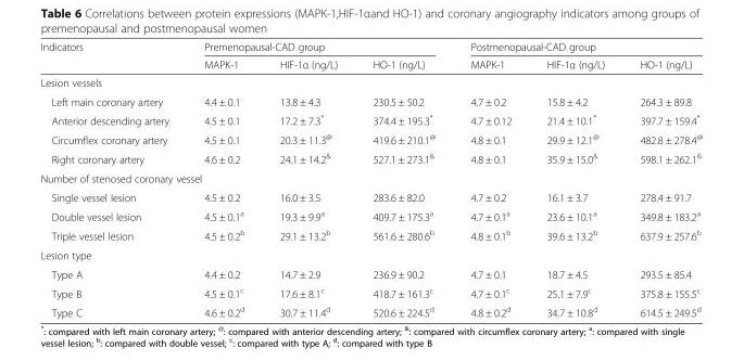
<table><thead><tr><td rowspan="2">Indicators</td><td colspan="3">Premenopausal-CAD group</td><td colspan="3">Postmenopausal-CAD group</td></tr><tr><td>MAPK-1</td><td>HIF-1α (ng/L)</td><td>HO-1 (ng/L)</td><td>MAPK-1</td><td>HIF-1α (ng/L)</td><td>HO-1 (ng/L)</td></tr></thead><tbody><tr><td colspan="7">Lesion vessels</td></tr><tr><td>Left main coronary artery</td><td>4.4 ± 0.1</td><td>13.8 ± 4.3</td><td>230.5 ± 50.2</td><td>4.7 ± 0.2</td><td>15.8 ± 4.2</td><td>264.3 ± 89.8</td></tr><tr><td>Anterior descending artery</td><td>4.5 ± 0.1</td><td>17.2 ± 7.3*</td><td>374.4 ± 195.3*</td><td>4.7 ± 0.12</td><td>21.4 ± 10.1*</td><td>397.7 ± 159.4*</td></tr><tr><td>Circumflex coronary artery</td><td>4.5 ± 0.1</td><td>20.3 ± 11.3<sup>@</sup></td><td>419.6 ± 210.1<sup>@</sup></td><td>4.8 ± 0.1</td><td>29.9 ± 12.1<sup>@</sup></td><td>482.8 ± 278.4<sup>@</sup></td></tr><tr><td>Right coronary artery</td><td>4.6 ± 0.2</td><td>24.1 ± 14.2<sup>&amp;</sup></td><td>527.1 ± 273.1<sup>&amp;</sup></td><td>4.8 ± 0.1</td><td>35.9 ± 15.0<sup>&amp;</sup></td><td>598.1 ± 262.1<sup>&amp;</sup></td></tr><tr><td colspan="7">Number of stenosed coronary vessel</td></tr><tr><td>Single vessel lesion</td><td>4.5 ± 0.2</td><td>16.0 ± 3.5</td><td>283.6 ± 82.0</td><td>4.7 ± 0.2</td><td>16.1 ± 3.7</td><td>278.4 ± 91.7</td></tr><tr><td>Double vessel lesion</td><td>4.5 ± 0.1<sup>a</sup></td><td>19.3 ± 9.9<sup>a</sup></td><td>409.7 ± 175.3<sup>a</sup></td><td>4.7 ± 0.1<sup>a</sup></td><td>23.6 ± 10.1<sup>a</sup></td><td>349.8 ± 183.2<sup>a</sup></td></tr><tr><td>Triple vessel lesion</td><td>4.5 ± 0.2<sup>b</sup></td><td>29.1 ± 13.2<sup>b</sup></td><td>561.6 ± 280.6<sup>b</sup></td><td>4.8 ± 0.1<sup>b</sup></td><td>39.6 ± 13.2<sup>b</sup></td><td>637.9 ± 257.6<sup>b</sup></td></tr><tr><td colspan="7">Lesion type</td></tr><tr><td>Type A</td><td>4.4 ± 0.2</td><td>14.7 ± 2.9</td><td>236.9 ± 90.2</td><td>4.7 ± 0.1</td><td>18.7 ± 4.5</td><td>293.5 ± 85.4</td></tr><tr><td>Type B</td><td>4.5 ± 0.1<sup>c</sup></td><td>17.6 ± 8.1<sup>c</sup></td><td>418.7 ± 161.3<sup>c</sup></td><td>4.7 ± 0.1<sup>c</sup></td><td>25.1 ± 7.9<sup>c</sup></td><td>375.8 ± 155.5<sup>c</sup></td></tr><tr><td>Type C</td><td>4.6 ± 0.2<sup>d</sup></td><td>30.7 ± 11.4<sup>d</sup></td><td>520.6 ± 224.5<sup>d</sup></td><td>4.8 ± 0.2<sup>d</sup></td><td>34.7 ± 10.8<sup>d</sup></td><td>614.5 ± 249.5<sup>d</sup></td></tr></tbody></table>